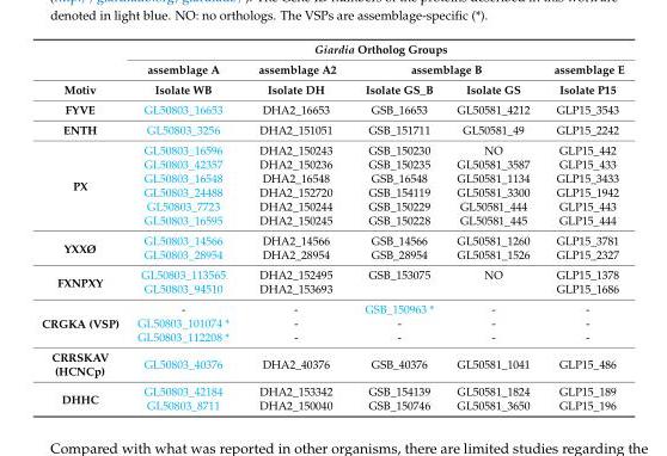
<table><thead><tr><td rowspan="3">Motiv</td><td colspan="5">Giardia Ortholog Groups</td></tr><tr><td rowspan="2">assemblage A Isolate WB</td><td rowspan="2">assemblage A2 Isolate DH</td><td colspan="2">assemblage B</td><td rowspan="2">assemblage E Isolate P15</td></tr><tr><td>Isolate GS_B</td><td>Isolate GS</td></tr></thead><tbody><tr><td>FYVE</td><td>GL50803_16653</td><td>DHA2_16653</td><td>GSB_16653</td><td>GL50581_4212</td><td>GLP15_3543</td></tr><tr><td>ENTH</td><td>GL50803_3256</td><td>DHA2_151051</td><td>GSB_151711</td><td>GL50581_49</td><td>GLP15_2242</td></tr><tr><td rowspan="6">PX</td><td>GL50803_16596</td><td>DHA2_150243</td><td>GSB_150230</td><td>NO</td><td>GLP15_442</td></tr><tr><td>GL50803_42357</td><td>DHA2_150236</td><td>GSB_150235</td><td>GL50581_3587</td><td>GLP15_433</td></tr><tr><td>GL50803_16548</td><td>DHA2_16548</td><td>GSB_16548</td><td>GL50581_1134</td><td>GLP15_3433</td></tr><tr><td>GL50803_24488</td><td>DHA2_152720</td><td>GSB_154119</td><td>GL50581_3300</td><td>GLP15_1942</td></tr><tr><td>GL50803_7723</td><td>DHA2_150244</td><td>GSB_150229</td><td>GL50581_444</td><td>GLP15_443</td></tr><tr><td>GL50803_16595</td><td>DHA2_150245</td><td>GSB_150228</td><td>GL50581_445</td><td>GLP15_444</td></tr><tr><td rowspan="2">YXXØ</td><td>GL50803_14566</td><td>DHA2_14566</td><td>GSB_14566</td><td>GL50581_1260</td><td>GLP15_3781</td></tr><tr><td>GL50803_28954</td><td>DHA2_28954</td><td>GSB_28954</td><td>GL50581_1526</td><td>GLP15_2327</td></tr><tr><td rowspan="2">FXNPXY</td><td>GL50803_113565</td><td>DHA2_152495</td><td>GSB_153075</td><td>NO</td><td>GLP15_1378</td></tr><tr><td>GL50803_94510</td><td>DHA2_153693</td><td></td><td></td><td>GLP15_1686</td></tr><tr><td rowspan="3">CRGKA (VSP)</td><td>-</td><td>-</td><td>GSB_150963 *</td><td>-</td><td>-</td></tr><tr><td>GL50803_101074 *</td><td>-</td><td>-</td><td>-</td><td>-</td></tr><tr><td>GL50803_112208 *</td><td>-</td><td>-</td><td>-</td><td>-</td></tr><tr><td>CRRSKAV (HCNCp)</td><td>GL50803_40376</td><td>DHA2_40376</td><td>GSB_40376</td><td>GL50581_1041</td><td>GLP15_486</td></tr><tr><td rowspan="2">DHHC</td><td>GL50803_42184</td><td>DHA2_153342</td><td>GSB_154139</td><td>GL50581_1824</td><td>GLP15_189</td></tr><tr><td>GL50803_8711</td><td>DHA2_150040</td><td>GSB_150746</td><td>GL50581_3650</td><td>GLP15_196</td></tr></tbody></table>